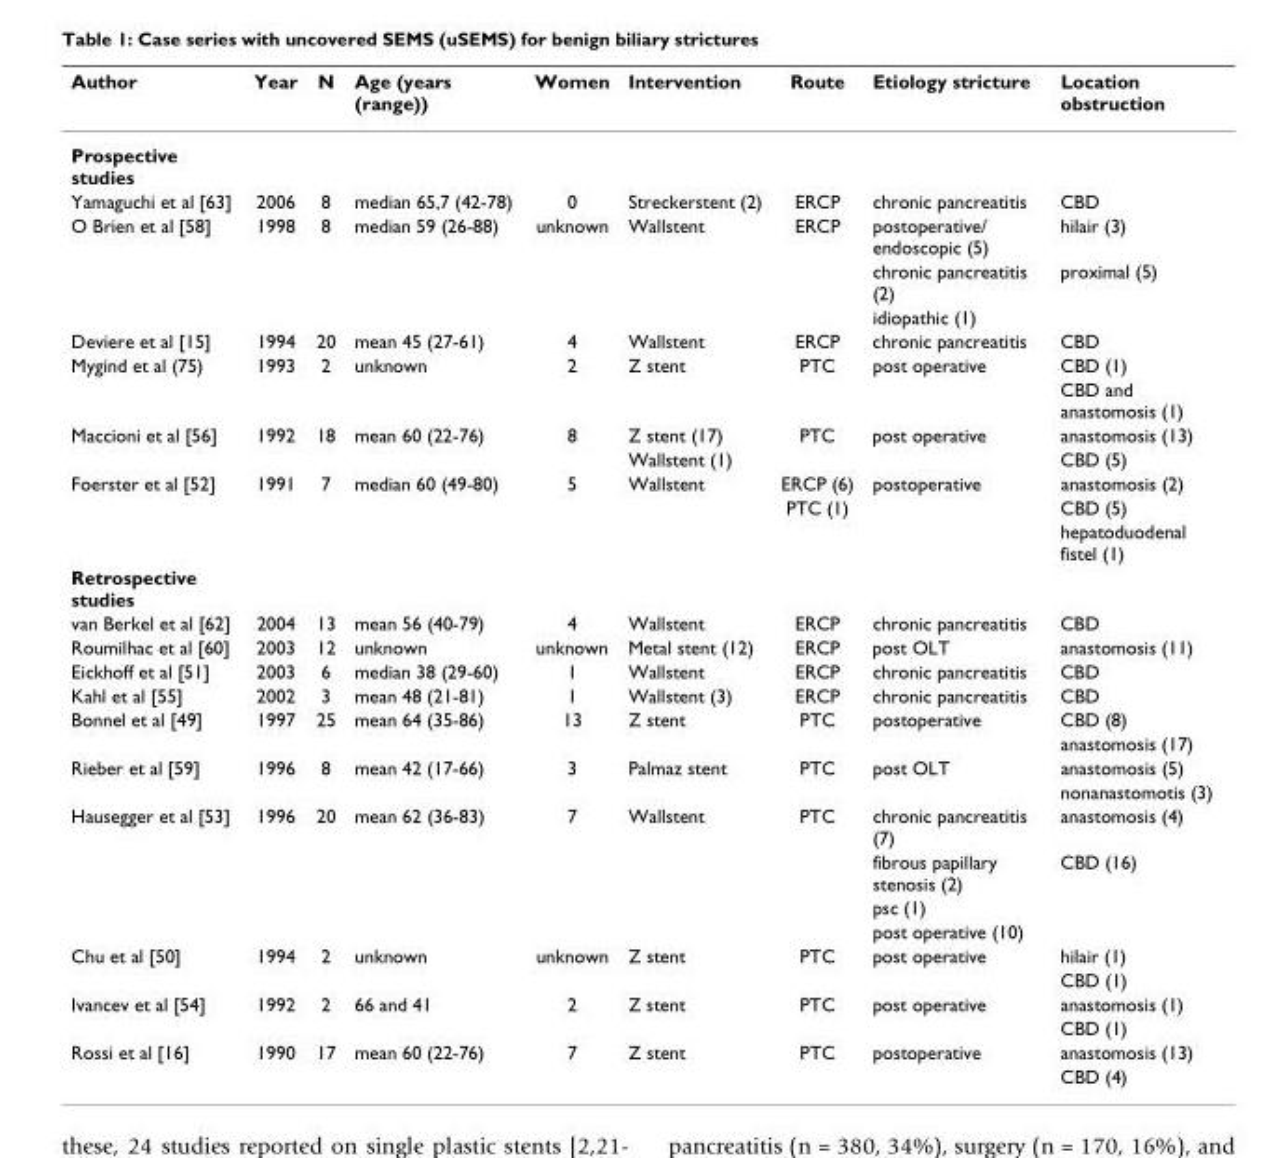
<table><thead><tr><td>Author</td><td>Year</td><td>N</td><td>Age (years (range))</td><td>Women</td><td>Intervention</td><td>Route</td><td>Etiology stricture</td><td>Location obstruction</td></tr></thead><tbody><tr><td colspan="9">Prospective studies</td></tr><tr><td>Yamaguchi et al [63]</td><td>2006</td><td>8</td><td>median 65,7 (42-78)</td><td>0</td><td>Streckerstent (2)</td><td>ERCP</td><td>chronic pancreatitis</td><td>CBD</td></tr><tr><td rowspan="3">O Brien et al [58]</td><td>1998</td><td>8</td><td>median 59 (26-88)</td><td>unknown</td><td>Wallstent</td><td>ERCP</td><td>postoperative/ endoscopic (5)</td><td>hilair (3)</td></tr><tr><td></td><td></td><td></td><td></td><td></td><td></td><td>chronic pancreatitis (2)</td><td>proximal (5)</td></tr><tr><td></td><td></td><td></td><td></td><td></td><td></td><td>idiopathic (1)</td><td></td></tr><tr><td>Deviere et al [15]</td><td>1994</td><td>20</td><td>mean 45 (27-61)</td><td>4</td><td>Wallstent</td><td>ERCP</td><td>chronic pancreatitis</td><td>CBD</td></tr><tr><td rowspan="2">Mygind et al (75)</td><td>1993</td><td>2</td><td>unknown</td><td>2</td><td>Z stent</td><td>PTC</td><td>post operative</td><td>CBD (1)</td></tr><tr><td></td><td></td><td></td><td></td><td></td><td></td><td></td><td>CBD and anastomosis (1)</td></tr><tr><td rowspan="2">Maccioni et al [56]</td><td>1992</td><td>18</td><td>mean 60 (22-76)</td><td>8</td><td>Z stent (17)</td><td>PTC</td><td>post operative</td><td>anastomosis (13)</td></tr><tr><td></td><td></td><td></td><td></td><td>Wallstent (1)</td><td></td><td></td><td>CBD (5)</td></tr><tr><td rowspan="3">Foerster et al [52]</td><td>1991</td><td>7</td><td>median 60 (49-80)</td><td>5</td><td>Wallstent</td><td>ERCP (6)</td><td>postoperative</td><td>anastomosis (2)</td></tr><tr><td></td><td></td><td></td><td></td><td></td><td>PTC (1)</td><td></td><td>CBD (5)</td></tr><tr><td></td><td></td><td></td><td></td><td></td><td></td><td></td><td>hepatoduodenal fistel (1)</td></tr><tr><td colspan="9">Retrospective studies</td></tr><tr><td>van Berkel et al [62]</td><td>2004</td><td>13</td><td>mean 56 (40-79)</td><td>4</td><td>Wallstent</td><td>ERCP</td><td>chronic pancreatitis</td><td>CBD</td></tr><tr><td>Roumilhac et al [60]</td><td>2003</td><td>12</td><td>unknown</td><td>unknown</td><td>Metal stent (12)</td><td>ERCP</td><td>post OLT</td><td>anastomosis (11)</td></tr><tr><td>Eickhoff et al [51]</td><td>2003</td><td>6</td><td>median 38 (29-60)</td><td>1</td><td>Wallstent</td><td>ERCP</td><td>chronic pancreatitis</td><td>CBD</td></tr><tr><td>Kahl et al [55]</td><td>2002</td><td>3</td><td>mean 48 (21-81)</td><td>1</td><td>Wallstent (3)</td><td>ERCP</td><td>chronic pancreatitis</td><td>CBD</td></tr><tr><td rowspan="2">Bonnel et al [49]</td><td>1997</td><td>25</td><td>mean 64 (35-86)</td><td>13</td><td>Z stent</td><td>PTC</td><td>postoperative</td><td>CBD (8)</td></tr><tr><td></td><td></td><td></td><td></td><td></td><td></td><td></td><td>anastomosis (17)</td></tr><tr><td rowspan="2">Rieber et al [59]</td><td>1996</td><td>8</td><td>mean 42 (17-66)</td><td>3</td><td>Palmaz stent</td><td>PTC</td><td>post OLT</td><td>anastomosis (5)</td></tr><tr><td></td><td></td><td></td><td></td><td></td><td></td><td></td><td>nonanastomotis (3)</td></tr><tr><td rowspan="4">Hausegger et al [53]</td><td>1996</td><td>20</td><td>mean 62 (36-83)</td><td>7</td><td>Wallstent</td><td>PTC</td><td>chronic pancreatitis (7)</td><td>anastomosis (4)</td></tr><tr><td></td><td></td><td></td><td></td><td></td><td></td><td>fibrous papillary stenosis (2)</td><td>CBD (16)</td></tr><tr><td></td><td></td><td></td><td></td><td></td><td></td><td>psc (1)</td><td></td></tr><tr><td></td><td></td><td></td><td></td><td></td><td></td><td>post operative (10)</td><td></td></tr><tr><td rowspan="2">Chu et al [50]</td><td>1994</td><td>2</td><td>unknown</td><td>unknown</td><td>Z stent</td><td>PTC</td><td>post operative</td><td>hilair (1)</td></tr><tr><td></td><td></td><td></td><td></td><td></td><td></td><td></td><td>CBD (1)</td></tr><tr><td rowspan="2">Ivancev et al [54]</td><td>1992</td><td>2</td><td>66 and 41</td><td>2</td><td>Z stent</td><td>PTC</td><td>post operative</td><td>anastomosis (1)</td></tr><tr><td></td><td></td><td></td><td></td><td></td><td></td><td></td><td>CBD (1)</td></tr><tr><td rowspan="2">Rossi et al [16]</td><td>1990</td><td>17</td><td>mean 60 (22-76)</td><td>7</td><td>Z stent</td><td>PTC</td><td>postoperative</td><td>anastomosis (13)</td></tr><tr><td></td><td></td><td></td><td></td><td></td><td></td><td></td><td>CBD (4)</td></tr></tbody></table>